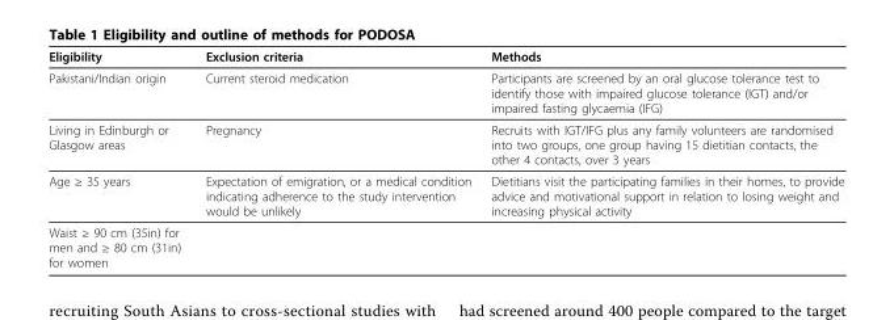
<table><thead><tr><td>Eligibility</td><td>Exclusion criteria</td><td>Methods</td></tr></thead><tbody><tr><td>Pakistani/Indian origin</td><td>Current steroid medication</td><td>Participants are screened by an oral glucose tolerance test to identify those with impaired glucose tolerance (IGT) and/or impaired fasting glycaemia (IFG)</td></tr><tr><td>Living in Edinburgh or Glasgow areas</td><td>Pregnancy</td><td>Recruits with IGT/IFG plus any family volunteers are randomised into two groups, one group having 15 dietitian contacts, the other 4 contacts, over 3 years</td></tr><tr><td>Age ≥ 35 years</td><td>Expectation of emigration, or a medical condition indicating adherence to the study intervention would be unlikely</td><td>Dietitians visit the participating families in their homes, to provide advice and motivational support in relation to losing weight and increasing physical activity</td></tr><tr><td>Waist ≥ 90 cm (35in) for men and ≥ 80 cm (31in) for women</td><td></td><td></td></tr></tbody></table>